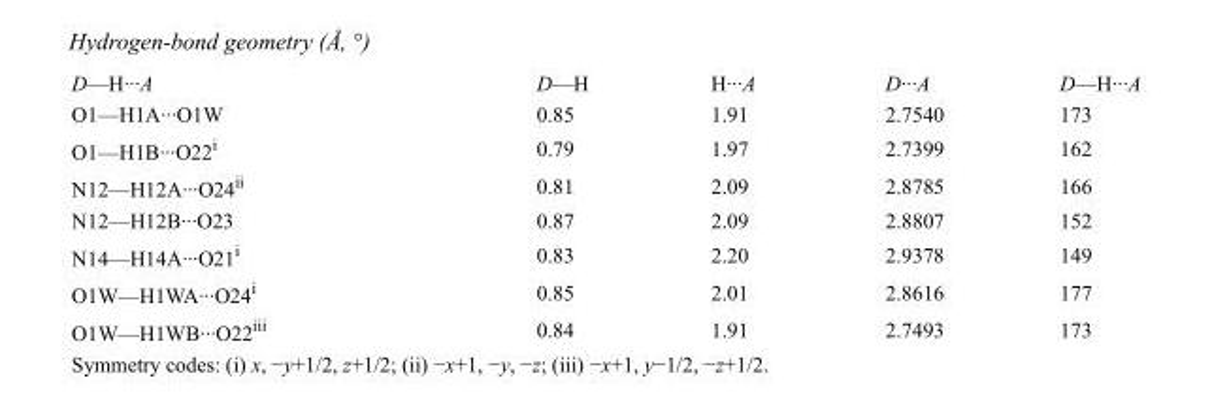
<table><tbody><tr><td>D—H···A</td><td>D—H</td><td>H···A</td><td>D···A</td><td>D—H···A</td></tr><tr><td>O1—H1A···O1W</td><td>0.85</td><td>1.91</td><td>2.7540</td><td>173</td></tr><tr><td>O1—H1B···O22<sup>i</sup></td><td>0.79</td><td>1.97</td><td>2.7399</td><td>162</td></tr><tr><td>N12—H12A···O24<sup>ii</sup></td><td>0.81</td><td>2.09</td><td>2.8785</td><td>166</td></tr><tr><td>N12—H12B···O23</td><td>0.87</td><td>2.09</td><td>2.8807</td><td>152</td></tr><tr><td>N14—H14A···O21<sup>i</sup></td><td>0.83</td><td>2.20</td><td>2.9378</td><td>149</td></tr><tr><td>O1W—H1WA···O24<sup>i</sup></td><td>0.85</td><td>2.01</td><td>2.8616</td><td>177</td></tr><tr><td>O1W—H1WB···O22<sup>iii</sup></td><td>0.84</td><td>1.91</td><td>2.7493</td><td>173</td></tr></tbody></table>